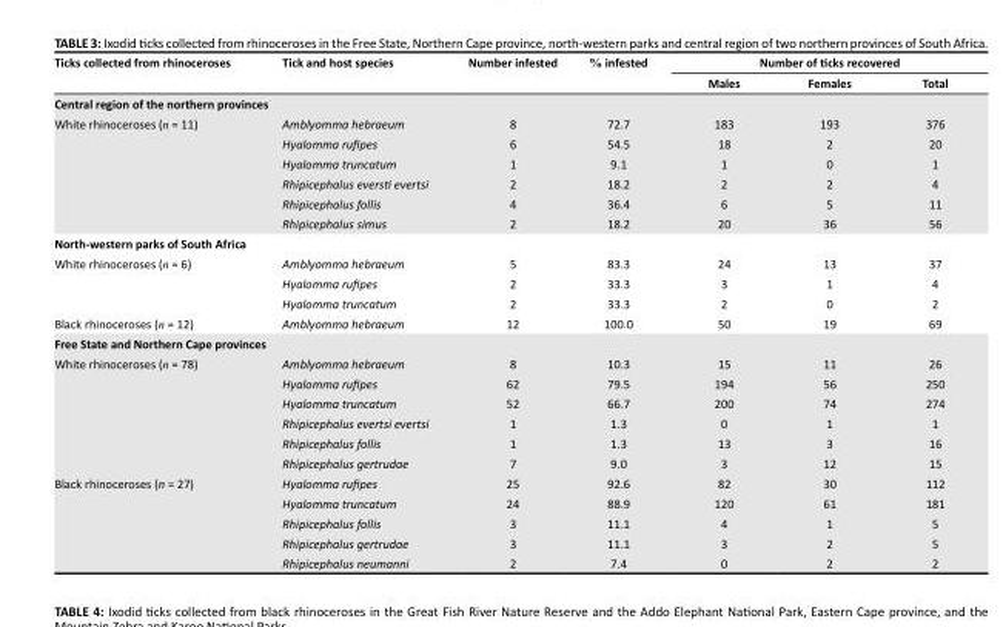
<table><thead><tr><td rowspan="2">Ticks collected from rhinoceroses</td><td rowspan="2">Tick and host species</td><td rowspan="2">Number infested</td><td rowspan="2">% infested</td><td colspan="3">Number of ticks recovered</td></tr><tr><td>Males</td><td>Females</td><td>Total</td></tr></thead><tbody><tr><td colspan="7">Central region of the northern provinces</td></tr><tr><td rowspan="6">White rhinoceroses (n = 11)</td><td>Amblyomma hebraeum</td><td>8</td><td>72.7</td><td>183</td><td>193</td><td>376</td></tr><tr><td>Hyalomma rufipes</td><td>6</td><td>54.5</td><td>18</td><td>2</td><td>20</td></tr><tr><td>Hyalomma truncatum</td><td>1</td><td>9.1</td><td>1</td><td>0</td><td>1</td></tr><tr><td>Rhipicephalus eversti evertsi</td><td>2</td><td>18.2</td><td>2</td><td>2</td><td>4</td></tr><tr><td>Rhipicephalus follis</td><td>4</td><td>36.4</td><td>6</td><td>5</td><td>11</td></tr><tr><td>Rhipicephalus simus</td><td>2</td><td>18.2</td><td>20</td><td>36</td><td>56</td></tr><tr><td colspan="7">North-western parks of South Africa</td></tr><tr><td rowspan="3">White rhinoceroses (n = 6)</td><td>Amblyomma hebraeum</td><td>5</td><td>83.3</td><td>24</td><td>13</td><td>37</td></tr><tr><td>Hyalomma rufipes</td><td>2</td><td>33.3</td><td>3</td><td>1</td><td>4</td></tr><tr><td>Hyalomma truncatum</td><td>2</td><td>33.3</td><td>2</td><td>0</td><td>2</td></tr><tr><td>Black rhinoceroses (n = 12)</td><td>Amblyomma hebraeum</td><td>12</td><td>100.0</td><td>50</td><td>19</td><td>69</td></tr><tr><td colspan="7">Free State and Northern Cape provinces</td></tr><tr><td rowspan="6">White rhinoceroses (n = 78)</td><td>Amblyomma hebraeum</td><td>8</td><td>10.3</td><td>15</td><td>11</td><td>26</td></tr><tr><td>Hyalomma rufipes</td><td>62</td><td>79.5</td><td>194</td><td>56</td><td>250</td></tr><tr><td>Hyalomma truncatum</td><td>52</td><td>66.7</td><td>200</td><td>74</td><td>274</td></tr><tr><td>Rhipicephalus evertsi evertsi</td><td>1</td><td>1.3</td><td>0</td><td>1</td><td>1</td></tr><tr><td>Rhipicephalus follis</td><td>1</td><td>1.3</td><td>13</td><td>3</td><td>16</td></tr><tr><td>Rhipicephalus gertrudae</td><td>7</td><td>9.0</td><td>3</td><td>12</td><td>15</td></tr><tr><td rowspan="5">Black rhinoceroses (n = 27)</td><td>Hyalomma rufipes</td><td>25</td><td>92.6</td><td>82</td><td>30</td><td>112</td></tr><tr><td>Hyalomma truncatum</td><td>24</td><td>88.9</td><td>120</td><td>61</td><td>181</td></tr><tr><td>Rhipicephalus follis</td><td>3</td><td>11.1</td><td>4</td><td>1</td><td>5</td></tr><tr><td>Rhipicephalus gertrudae</td><td>3</td><td>11.1</td><td>3</td><td>2</td><td>5</td></tr><tr><td>Rhipicephalus neumanni</td><td>2</td><td>7.4</td><td>0</td><td>2</td><td>2</td></tr></tbody></table>